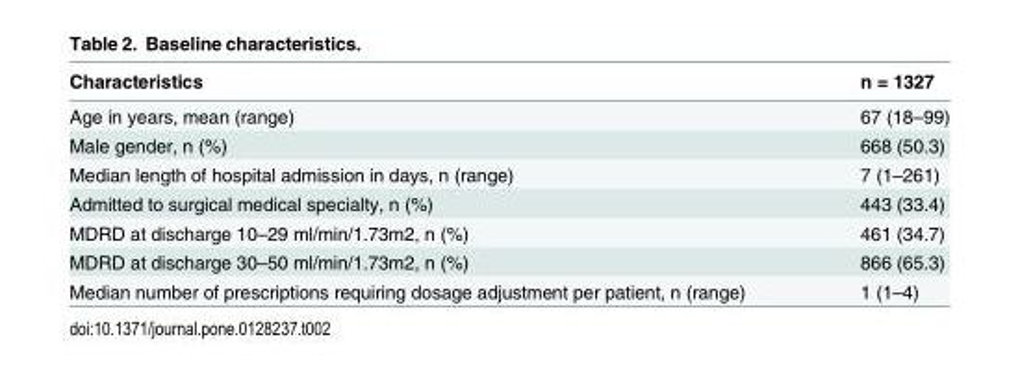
<table><thead><tr><td>Characteristics</td><td>n = 1327</td></tr></thead><tbody><tr><td>Age in years, mean (range)</td><td>67 (18–99)</td></tr><tr><td>Male gender, n (%)</td><td>668 (50.3)</td></tr><tr><td>Median length of hospital admission in days, n (range)</td><td>7 (1–261)</td></tr><tr><td>Admitted to surgical medical specialty, n (%)</td><td>443 (33.4)</td></tr><tr><td>MDRD at discharge 10–29 ml/min/1.73m2, n (%)</td><td>461 (34.7)</td></tr><tr><td>MDRD at discharge 30–50 ml/min/1.73m2, n (%)</td><td>866 (65.3)</td></tr><tr><td>Median number of prescriptions requiring dosage adjustment per patient, n (range)</td><td>1 (1–4)</td></tr></tbody></table>